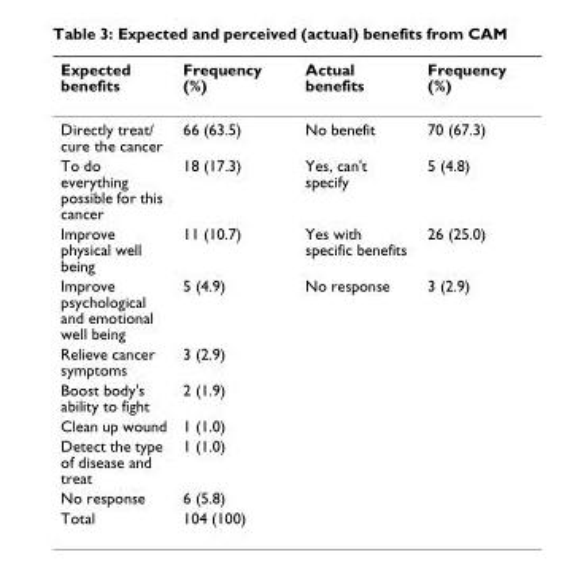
<table><thead><tr><td>Expected benefits</td><td>Frequency (%)</td><td>Actual benefits</td><td>Frequency (%)</td></tr></thead><tbody><tr><td>Directly treat/ cure the cancer</td><td>66 (63.5)</td><td>No benefit</td><td>70 (67.3)</td></tr><tr><td>To do everything possible for this cancer</td><td>18 (17.3)</td><td>Yes, can&#x27;t specify</td><td>5 (4.8)</td></tr><tr><td>Improve physical well being</td><td>11 (10.7)</td><td>Yes with specific benefits</td><td>26 (25.0)</td></tr><tr><td>Improve psychological and emotional well being</td><td>5 (4.9)</td><td>No response</td><td>3 (2.9)</td></tr><tr><td>Relieve cancer symptoms</td><td>3 (2.9)</td><td></td><td></td></tr><tr><td>Boost body&#x27;s ability to fight</td><td>2 (1.9)</td><td></td><td></td></tr><tr><td>Clean up wound</td><td>1 (1.0)</td><td></td><td></td></tr><tr><td>Detect the type of disease and treat</td><td>1 (1.0)</td><td></td><td></td></tr><tr><td>No response</td><td>6 (5.8)</td><td></td><td></td></tr><tr><td>Total</td><td>104 (100)</td><td></td><td></td></tr></tbody></table>